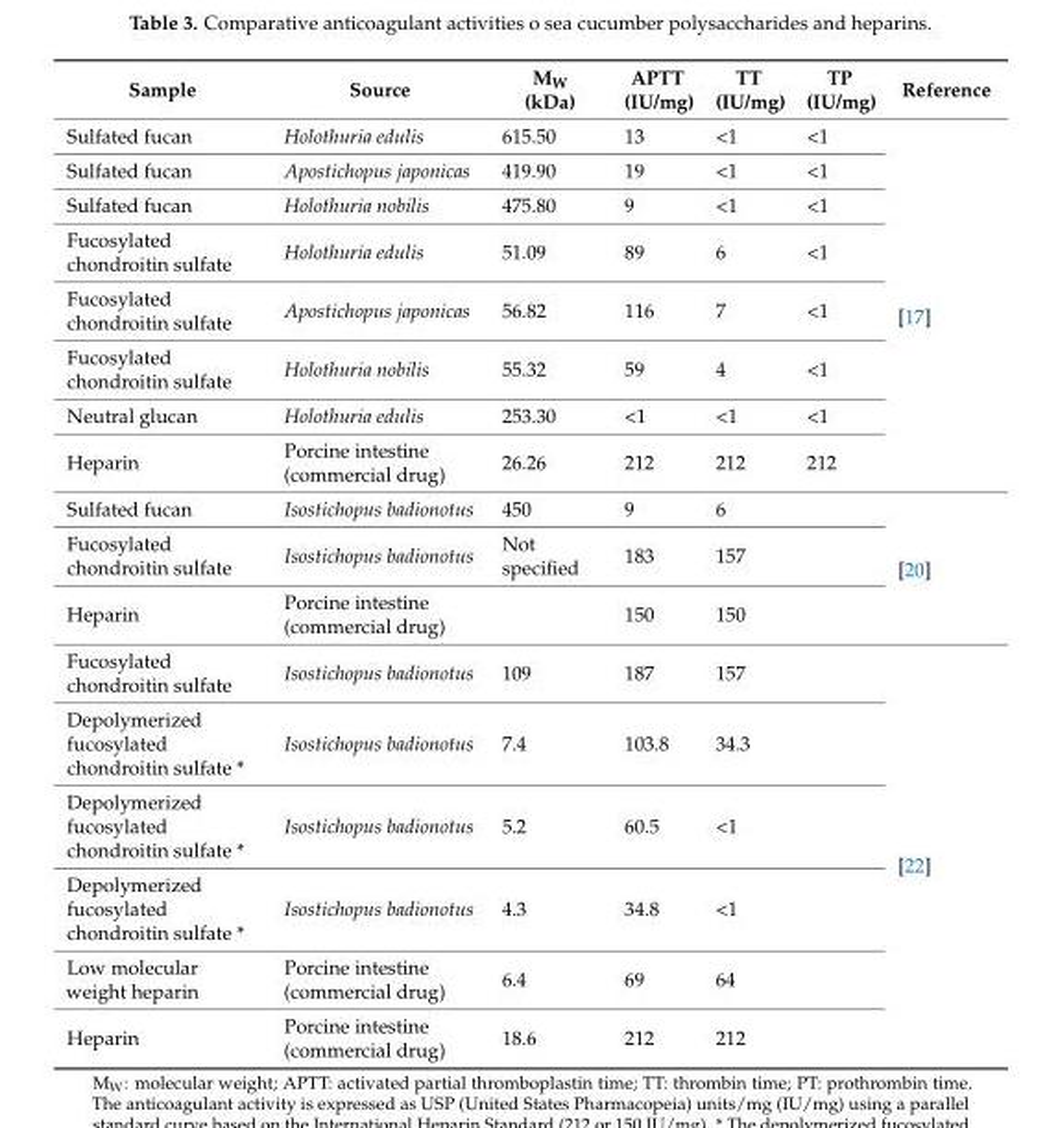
<table><thead><tr><td>Sample</td><td>Source</td><td>M<sub>W</sub> (kDa)</td><td>APTT (IU/mg)</td><td>TT (IU/mg)</td><td>TP (IU/mg)</td><td>Reference</td></tr></thead><tbody><tr><td>Sulfated fucan</td><td>Holothuria edulis</td><td>615.50</td><td>13</td><td>&lt;1</td><td>&lt;1</td><td rowspan="8">[17]</td></tr><tr><td>Sulfated fucan</td><td>Apostichopus japonicas</td><td>419.90</td><td>19</td><td>&lt;1</td><td>&lt;1</td></tr><tr><td>Sulfated fucan</td><td>Holothuria nobilis</td><td>475.80</td><td>9</td><td>&lt;1</td><td>&lt;1</td></tr><tr><td>Fucosylated chondroitin sulfate</td><td>Holothuria edulis</td><td>51.09</td><td>89</td><td>6</td><td>&lt;1</td></tr><tr><td>Fucosylated chondroitin sulfate</td><td>Apostichopus japonicas</td><td>56.82</td><td>116</td><td>7</td><td>&lt;1</td></tr><tr><td>Fucosylated chondroitin sulfate</td><td>Holothuria nobilis</td><td>55.32</td><td>59</td><td>4</td><td>&lt;1</td></tr><tr><td>Neutral glucan</td><td>Holothuria edulis</td><td>253.30</td><td>&lt;1</td><td>&lt;1</td><td>&lt;1</td></tr><tr><td>Heparin</td><td>Porcine intestine (commercial drug)</td><td>26.26</td><td>212</td><td>212</td><td>212</td></tr><tr><td>Sulfated fucan</td><td>Isostichopus badionotus</td><td>450</td><td>9</td><td>6</td><td></td><td rowspan="3">[20]</td></tr><tr><td>Fucosylated chondroitin sulfate</td><td>Isostichopus badionotus</td><td>Not specified</td><td>183</td><td>157</td><td></td></tr><tr><td>Heparin</td><td>Porcine intestine (commercial drug)</td><td></td><td>150</td><td>150</td><td></td></tr><tr><td>Fucosylated chondroitin sulfate</td><td>Isostichopus badionotus</td><td>109</td><td>187</td><td>157</td><td></td><td rowspan="6">[22]</td></tr><tr><td>Depolymerized fucosylated chondroitin sulfate *</td><td>Isostichopus badionotus</td><td>7.4</td><td>103.8</td><td>34.3</td><td></td></tr><tr><td>Depolymerized fucosylated chondroitin sulfate *</td><td>Isostichopus badionotus</td><td>5.2</td><td>60.5</td><td>&lt;1</td><td></td></tr><tr><td>Depolymerized fucosylated chondroitin sulfate *</td><td>Isostichopus badionotus</td><td>4.3</td><td>34.8</td><td>&lt;1</td><td></td></tr><tr><td>Low molecular weight heparin</td><td>Porcine intestine (commercial drug)</td><td>6.4</td><td>69</td><td>64</td><td></td></tr><tr><td>Heparin</td><td>Porcine intestine (commercial drug)</td><td>18.6</td><td>212</td><td>212</td><td></td></tr></tbody></table>